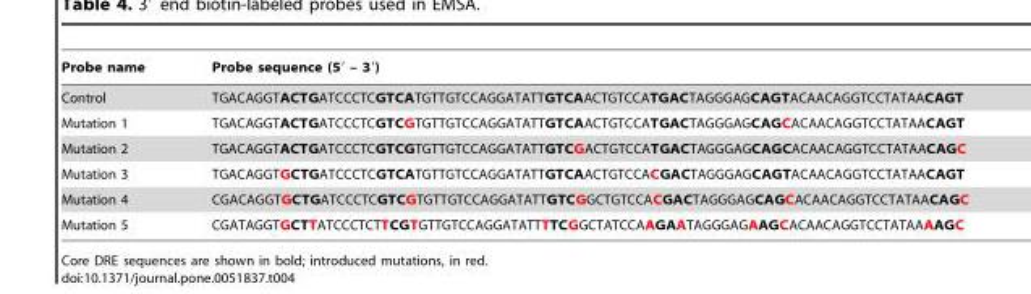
<table><thead><tr><td>Probe name</td><td>Probe sequence (5′ – 3′)</td></tr></thead><tbody><tr><td>Control</td><td>TGACAGGTACTGATCCCTCGTCATGTTGTCCAGGATATTGTCAACTGTCCATGACTAGGGAGCAGTACAACAGGTCCTATAACAGT</td></tr><tr><td>Mutation 1</td><td>TGACAGGTACTGATCCCTCGTCGTGTTGTCCAGGATATTGTCAACTGTCCATGACTAGGGAGCAGCACAACAGGTCCTATAACAGT</td></tr><tr><td>Mutation 2</td><td>TGACAGGTACTGATCCCTCGTCGTGTTGTCCAGGATATTGTCGACTGTCCATGACTAGGGAGCAGCACAACAGGTCCTATAACAGC</td></tr><tr><td>Mutation 3</td><td>TGACAGGTGCTGATCCCTCGTCATGTTGTCCAGGATATTGTCAACTGTCCACGACTAGGGAGCAGTACAACAGGTCCTATAACAGT</td></tr><tr><td>Mutation 4</td><td>CGACAGGTGCTGATCCCTCGTCGTGTTGTCCAGGATATTGTCGGCTGTCCACGACTAGGGAGCAGCACAACAGGTCCTATAACAGC</td></tr><tr><td>Mutation 5</td><td>CGATAGGTGCTTATCCCTCTTCGTGTTGTCCAGGATATTTTCGGCTATCCAAGAATAGGGAGAAGCACAACAGGTCCTATAAAAGC</td></tr></tbody></table>